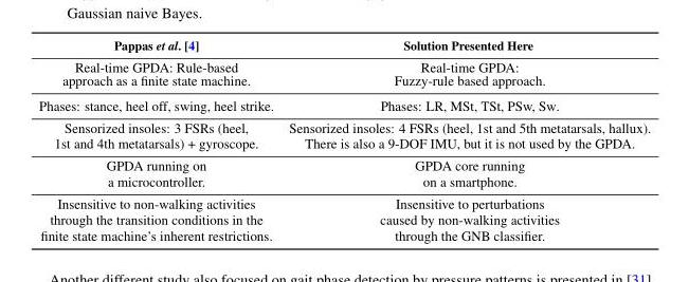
<table><thead><tr><td>Pappas et al. [4]</td><td>Solution Presented Here</td></tr></thead><tbody><tr><td>Real-time GPDA: Rule-based approach as a finite state machine.</td><td>Real-time GPDA: Fuzzy-rule based approach.</td></tr><tr><td>Phases: stance, heel off, swing, heel strike.</td><td>Phases: LR, MSt, TSt, PSw, Sw.</td></tr><tr><td>Sensorized insoles: 3 FSRs (heel, 1st and 4th metatarsals) + gyroscope.</td><td>Sensorized insoles: 4 FSRs (heel, 1st and 5th metatarsals, hallux). There is also a 9-DOF IMU, but it is not used by the GPDA.</td></tr><tr><td>GPDA running on a microcontroller.</td><td>GPDA core running on a smartphone.</td></tr><tr><td>Insensitive to non-walking activities through the transition conditions in the finite state machine’s inherent restrictions.</td><td>Insensitive to perturbations caused by non-walking activities through the GNB classifier.</td></tr></tbody></table>